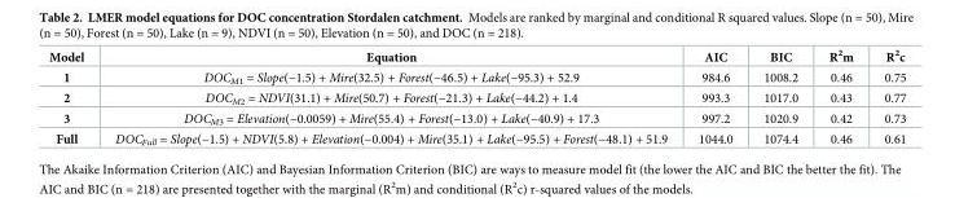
<table><thead><tr><td>Model</td><td>Equation</td><td>AIC</td><td>BIC</td><td>R<sup>2</sup>m</td><td>R<sup>2</sup>c</td></tr></thead><tbody><tr><td>1</td><td>DOC<sub>M1</sub> = Slope(−1.5) + Mire(32.5) + Forest(−46.5) + Lake(−95.3) + 52.9</td><td>984.6</td><td>1008.2</td><td>0.46</td><td>0.75</td></tr><tr><td>2</td><td>DOC<sub>M2</sub> = NDVI(31.1) + Mire(50.7) + Forest(−21.3) + Lake(−44.2) + 1.4</td><td>993.3</td><td>1017.0</td><td>0.43</td><td>0.77</td></tr><tr><td>3</td><td>DOC<sub>M3</sub> = Elevation(−0.0059) + Mire(55.4) + Forest(−13.0) + Lake(−40.9) + 17.3</td><td>997.2</td><td>1020.9</td><td>0.42</td><td>0.73</td></tr><tr><td>Full</td><td>DOC<sub>Full</sub> = Slope(−1.5) + NDVI(5.8) + Elevation(−0.004) + Mire(35.1) + Lake(−95.5) + Forest(−48.1) + 51.9</td><td>1044.0</td><td>1074.4</td><td>0.46</td><td>0.61</td></tr></tbody></table>